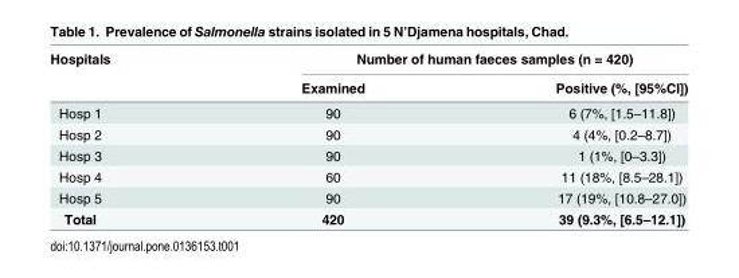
<table><thead><tr><td rowspan="2">Hospitals</td><td colspan="2">Number of human faeces samples (n = 420)</td></tr><tr><td>Examined</td><td>Positive (%, [95%CI])</td></tr></thead><tbody><tr><td>Hosp 1</td><td>90</td><td>6 (7%, [1.5–11.8])</td></tr><tr><td>Hosp 2</td><td>90</td><td>4 (4%, [0.2–8.7])</td></tr><tr><td>Hosp 3</td><td>90</td><td>1 (1%, [0–3.3])</td></tr><tr><td>Hosp 4</td><td>60</td><td>11 (18%, [8.5–28.1])</td></tr><tr><td>Hosp 5</td><td>90</td><td>17 (19%, [10.8–27.0])</td></tr><tr><td>Total</td><td>420</td><td>39 (9.3%, [6.5–12.1])</td></tr></tbody></table>